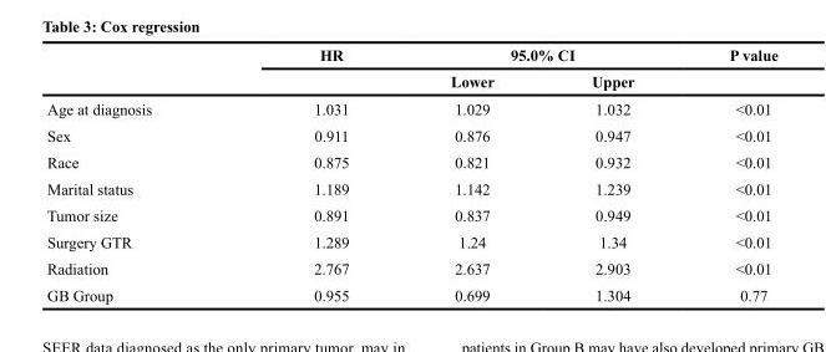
<table><thead><tr><td rowspan="2"></td><td rowspan="2">HR</td><td colspan="2">95.0% CI</td><td rowspan="2">P value</td></tr><tr><td>Lower</td><td>Upper</td></tr></thead><tbody><tr><td>Age at diagnosis</td><td>1.031</td><td>1.029</td><td>1.032</td><td>&lt;0.01</td></tr><tr><td>Sex</td><td>0.911</td><td>0.876</td><td>0.947</td><td>&lt;0.01</td></tr><tr><td>Race</td><td>0.875</td><td>0.821</td><td>0.932</td><td>&lt;0.01</td></tr><tr><td>Marital status</td><td>1.189</td><td>1.142</td><td>1.239</td><td>&lt;0.01</td></tr><tr><td>Tumor size</td><td>0.891</td><td>0.837</td><td>0.949</td><td>&lt;0.01</td></tr><tr><td>Surgery GTR</td><td>1.289</td><td>1.24</td><td>1.34</td><td>&lt;0.01</td></tr><tr><td>Radiation</td><td>2.767</td><td>2.637</td><td>2.903</td><td>&lt;0.01</td></tr><tr><td>GB Group</td><td>0.955</td><td>0.699</td><td>1.304</td><td>0.77</td></tr></tbody></table>